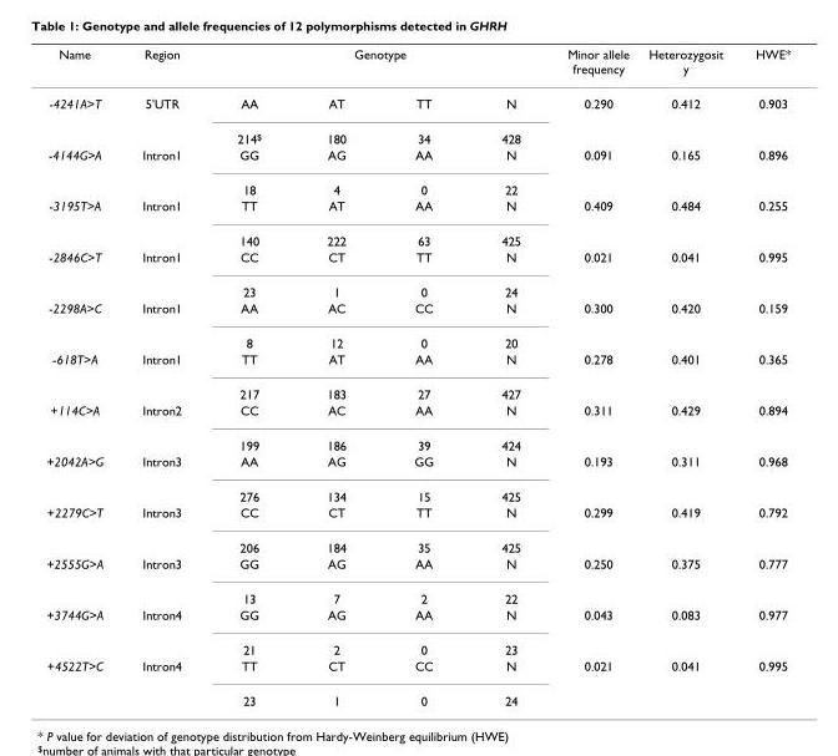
<table><thead><tr><td rowspan="2">Name -4241A&gt;T</td><td rowspan="2">Region 5&#x27;UTR</td><td colspan="4">Genotype</td><td rowspan="2">Minor allele frequency 0.290</td><td rowspan="2">Heterozygosit y 0.412</td><td rowspan="2">HWE* 0.903</td></tr><tr><td>AA</td><td>AT</td><td>TT</td><td>N</td></tr></thead><tbody><tr><td></td><td></td><td>214<sup>$</sup></td><td>180</td><td>34</td><td>428</td><td></td><td></td><td></td></tr><tr><td rowspan="2">-4144G&gt;A</td><td>Intron1</td><td>GG</td><td>AG</td><td>AA</td><td>N</td><td>0.091</td><td>0.165</td><td>0.896</td></tr><tr><td></td><td>18</td><td>4</td><td>0</td><td>22</td><td></td><td></td><td></td></tr><tr><td rowspan="2">-3195T&gt;A</td><td>Intron1</td><td>TT</td><td>AT</td><td>AA</td><td>N</td><td>0.409</td><td>0.484</td><td>0.255</td></tr><tr><td></td><td>140</td><td>222</td><td>63</td><td>425</td><td></td><td></td><td></td></tr><tr><td rowspan="2">-2846C&gt;T</td><td>Intron1</td><td>CC</td><td>CT</td><td>TT</td><td>N</td><td>0.021</td><td>0.041</td><td>0.995</td></tr><tr><td></td><td>23</td><td>1</td><td>0</td><td>24</td><td></td><td></td><td></td></tr><tr><td rowspan="2">-2298A&gt;C</td><td>Intron1</td><td>AA</td><td>AC</td><td>CC</td><td>N</td><td>0.300</td><td>0.420</td><td>0.159</td></tr><tr><td></td><td>8</td><td>12</td><td>0</td><td>20</td><td></td><td></td><td></td></tr><tr><td rowspan="2">-618T&gt;A</td><td>Intron1</td><td>TT</td><td>AT</td><td>AA</td><td>N</td><td>0.278</td><td>0.401</td><td>0.365</td></tr><tr><td></td><td>217</td><td>183</td><td>27</td><td>427</td><td></td><td></td><td></td></tr><tr><td rowspan="2">+114C&gt;A</td><td>Intron2</td><td>CC</td><td>AC</td><td>AA</td><td>N</td><td>0.311</td><td>0.429</td><td>0.894</td></tr><tr><td></td><td>199</td><td>186</td><td>39</td><td>424</td><td></td><td></td><td></td></tr><tr><td rowspan="2">+2042A&gt;G</td><td>Intron3</td><td>AA</td><td>AG</td><td>GG</td><td>N</td><td>0.193</td><td>0.311</td><td>0.968</td></tr><tr><td></td><td>276</td><td>134</td><td>15</td><td>425</td><td></td><td></td><td></td></tr><tr><td rowspan="2">+2279C&gt;T</td><td>Intron3</td><td>CC</td><td>CT</td><td>TT</td><td>N</td><td>0.299</td><td>0.419</td><td>0.792</td></tr><tr><td></td><td>206</td><td>184</td><td>35</td><td>425</td><td></td><td></td><td></td></tr><tr><td rowspan="2">+2555G&gt;A</td><td>Intron3</td><td>GG</td><td>AG</td><td>AA</td><td>N</td><td>0.250</td><td>0.375</td><td>0.777</td></tr><tr><td></td><td>13</td><td>7</td><td>2</td><td>22</td><td></td><td></td><td></td></tr><tr><td rowspan="2">+3744G&gt;A</td><td>Intron4</td><td>GG</td><td>AG</td><td>AA</td><td>N</td><td>0.043</td><td>0.083</td><td>0.977</td></tr><tr><td></td><td>21</td><td>2</td><td>0</td><td>23</td><td></td><td></td><td></td></tr><tr><td rowspan="2">+4522T&gt;C</td><td>Intron4</td><td>TT</td><td>CT</td><td>CC</td><td>N</td><td>0.021</td><td>0.041</td><td>0.995</td></tr><tr><td></td><td>23</td><td>1</td><td>0</td><td>24</td><td></td><td></td><td></td></tr></tbody></table>